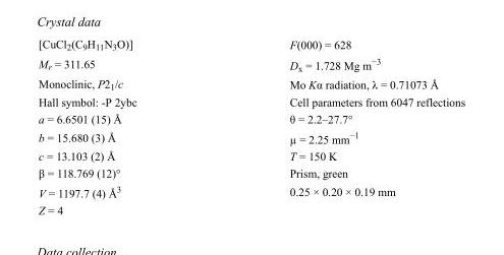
<table><tbody><tr><td>[CuCl<sub>2</sub>(C<sub>9</sub>H<sub>11</sub>N<sub>3</sub>O)]</td><td>F(000) = 628</td></tr><tr><td>M<sub>r</sub> = 311.65</td><td>D<sub>x</sub> = 1.728 Mg m<sup>−3</sup></td></tr><tr><td>Monoclinic, P2<sub>1</sub>/c</td><td>Mo Kα radiation, λ = 0.71073 Å</td></tr><tr><td>Hall symbol: -P 2ybc</td><td>Cell parameters from 6047 reflections</td></tr><tr><td>a = 6.6501 (15) Å</td><td>θ = 2.2–27.7°</td></tr><tr><td>b = 15.680 (3) Å</td><td>µ = 2.25 mm<sup>−1</sup></td></tr><tr><td>c = 13.103 (2) Å</td><td>T = 150 K</td></tr><tr><td>β = 118.769 (12)°</td><td>Prism, green</td></tr><tr><td>V = 1197.7 (4) Å<sup>3</sup></td><td>0.25 × 0.20 × 0.19 mm</td></tr><tr><td>Z = 4</td><td></td></tr></tbody></table>